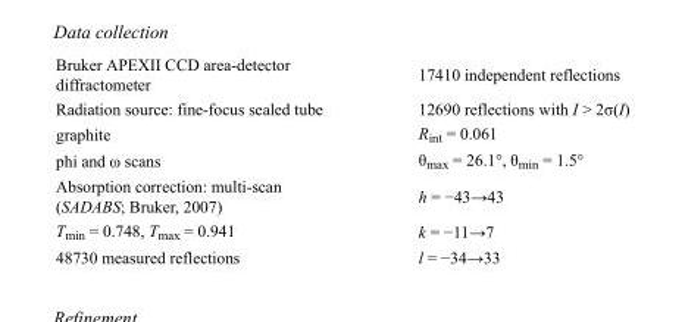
<table><tbody><tr><td>Bruker APEXII CCD area-detector diffractometer</td><td>17410 independent reflections</td></tr><tr><td>Radiation source: fine-focus sealed tube</td><td>12690 reflections with I &gt; 2σ(I)</td></tr><tr><td>graphite</td><td>R<sub>int</sub> = 0.061</td></tr><tr><td>phi and ω scans</td><td>θ<sub>max</sub> = 26.1°, θ<sub>min</sub> = 1.5°</td></tr><tr><td>Absorption correction: multi-scan (SADABS; Bruker, 2007)</td><td>h = −43→43</td></tr><tr><td>T<sub>min</sub> = 0.748, T<sub>max</sub> = 0.941</td><td>k = −11→7</td></tr><tr><td>48730 measured reflections</td><td>l = −34→33</td></tr></tbody></table>